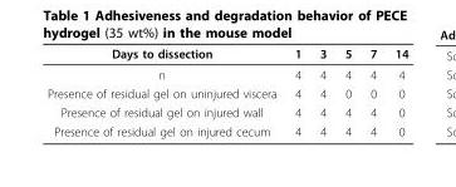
<table><thead><tr><td>Days to dissection</td><td>1</td><td>3</td><td>5</td><td>7</td><td>14</td></tr></thead><tbody><tr><td>n</td><td>4</td><td>4</td><td>4</td><td>4</td><td>4</td></tr><tr><td>Presence of residual gel on uninjured viscera</td><td>4</td><td>4</td><td>0</td><td>0</td><td>0</td></tr><tr><td>Presence of residual gel on injured wall</td><td>4</td><td>4</td><td>4</td><td>4</td><td>0</td></tr><tr><td>Presence of residual gel on injured cecum</td><td>4</td><td>4</td><td>4</td><td>4</td><td>0</td></tr></tbody></table>